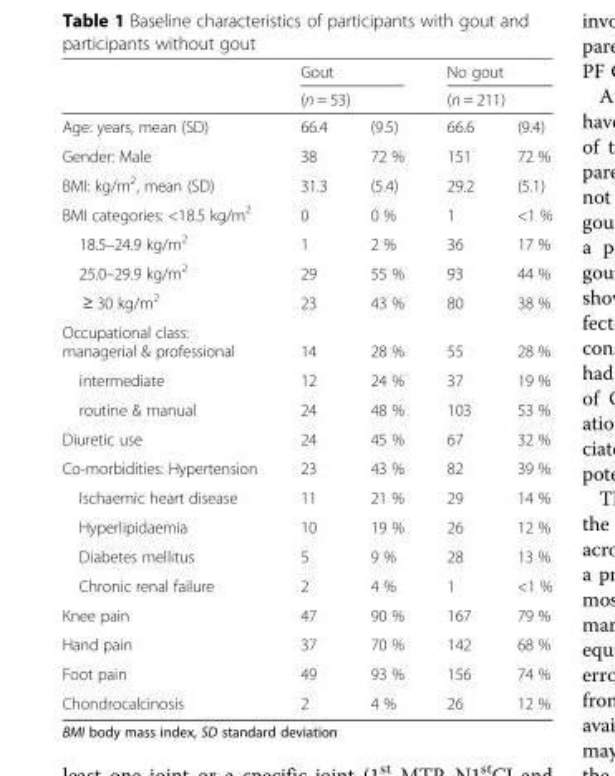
<table><thead><tr><td rowspan="3">Age: years, mean (SD)</td><td rowspan="2" colspan="2">Gout (n = 53)</td><td rowspan="2" colspan="2">No gout (n = 211)</td></tr><tr></tr><tr><td>66.4</td><td>(9.5)</td><td>66.6</td><td>(9.4)</td></tr></thead><tbody><tr><td>Gender: Male</td><td>38</td><td>72 %</td><td>151</td><td>72 %</td></tr><tr><td>BMI: kg/m<sup>2</sup>, mean (SD)</td><td>31.3</td><td>(5.4)</td><td>29.2</td><td>(5.1)</td></tr><tr><td>BMI categories: &lt;18.5 kg/m<sup>2</sup></td><td>0</td><td>0 %</td><td>1</td><td>&lt;1 %</td></tr><tr><td>18.5–24.9 kg/m<sup>2</sup></td><td>1</td><td>2 %</td><td>36</td><td>17 %</td></tr><tr><td>25.0–29.9 kg/m<sup>2</sup></td><td>29</td><td>55 %</td><td>93</td><td>44 %</td></tr><tr><td>≥ 30 kg/m<sup>2</sup></td><td>23</td><td>43 %</td><td>80</td><td>38 %</td></tr><tr><td>Occupational class: managerial &amp; professional</td><td>14</td><td>28 %</td><td>55</td><td>28 %</td></tr><tr><td>intermediate</td><td>12</td><td>24 %</td><td>37</td><td>19 %</td></tr><tr><td>routine &amp; manual</td><td>24</td><td>48 %</td><td>103</td><td>53 %</td></tr><tr><td>Diuretic use</td><td>24</td><td>45 %</td><td>67</td><td>32 %</td></tr><tr><td>Co-morbidities: Hypertension</td><td>23</td><td>43 %</td><td>82</td><td>39 %</td></tr><tr><td>Ischaemic heart disease</td><td>11</td><td>21 %</td><td>29</td><td>14 %</td></tr><tr><td>Hyperlipidaemia</td><td>10</td><td>19 %</td><td>26</td><td>12 %</td></tr><tr><td>Diabetes mellitus</td><td>5</td><td>9 %</td><td>28</td><td>13 %</td></tr><tr><td>Chronic renal failure</td><td>2</td><td>4 %</td><td>1</td><td>&lt;1 %</td></tr><tr><td>Knee pain</td><td>47</td><td>90 %</td><td>167</td><td>79 %</td></tr><tr><td>Hand pain</td><td>37</td><td>70 %</td><td>142</td><td>68 %</td></tr><tr><td>Foot pain</td><td>49</td><td>93 %</td><td>156</td><td>74 %</td></tr><tr><td>Chondrocalcinosis</td><td>2</td><td>4 %</td><td>26</td><td>12 %</td></tr></tbody></table>